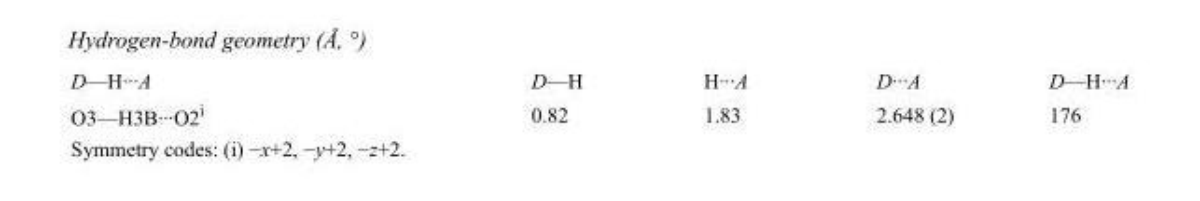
<table><tbody><tr><td>D—H···A</td><td>D—H</td><td>H···A</td><td>D···A</td><td>D—H···A</td></tr><tr><td>O3—H3B···O2<sup>i</sup></td><td>0.82</td><td>1.83</td><td>2.648 (2)</td><td>176</td></tr></tbody></table>